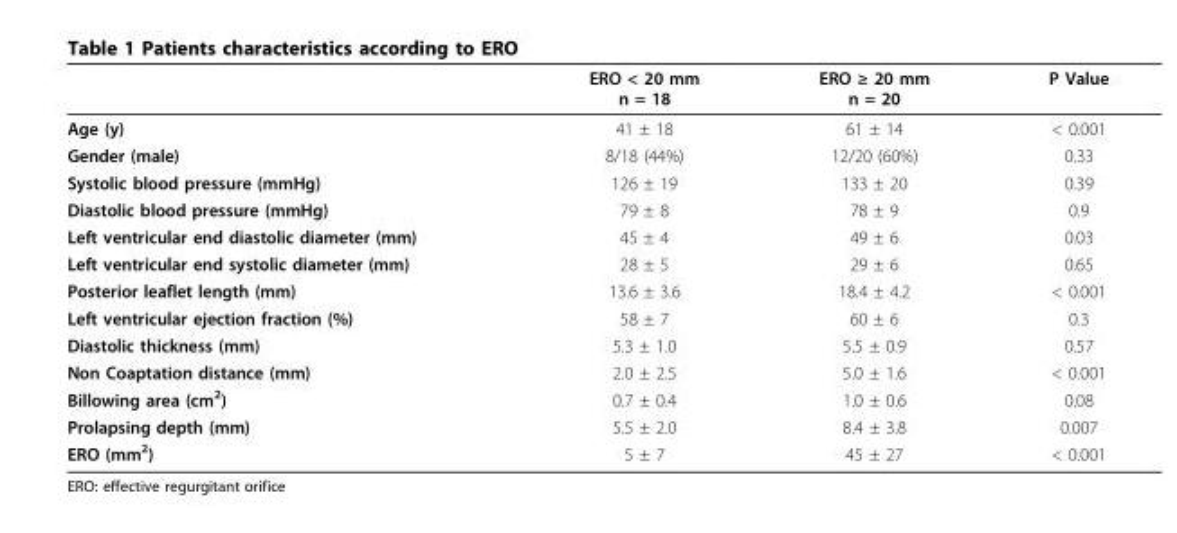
<table><thead><tr><td></td><td>ERO &lt; 20 mm n = 18</td><td>ERO ≥ 20 mm n = 20</td><td>P Value</td></tr></thead><tbody><tr><td>Age (y)</td><td>41 ± 18</td><td>61 ± 14</td><td>&lt; 0.001</td></tr><tr><td>Gender (male)</td><td>8/18 (44%)</td><td>12/20 (60%)</td><td>0.33</td></tr><tr><td>Systolic blood pressure (mmHg)</td><td>126 ± 19</td><td>133 ± 20</td><td>0.39</td></tr><tr><td>Diastolic blood pressure (mmHg)</td><td>79 ± 8</td><td>78 ± 9</td><td>0.9</td></tr><tr><td>Left ventricular end diastolic diameter (mm)</td><td>45 ± 4</td><td>49 ± 6</td><td>0.03</td></tr><tr><td>Left ventricular end systolic diameter (mm)</td><td>28 ± 5</td><td>29 ± 6</td><td>0.65</td></tr><tr><td>Posterior leaflet length (mm)</td><td>13.6 ± 3.6</td><td>18.4 ± 4.2</td><td>&lt; 0.001</td></tr><tr><td>Left ventricular ejection fraction (%)</td><td>58 ± 7</td><td>60 ± 6</td><td>0.3</td></tr><tr><td>Diastolic thickness (mm)</td><td>5.3 ± 1.0</td><td>5.5 ± 0.9</td><td>0.57</td></tr><tr><td>Non Coaptation distance (mm)</td><td>2.0 ± 2.5</td><td>5.0 ± 1.6</td><td>&lt; 0.001</td></tr><tr><td>Billowing area (cm<sup>2</sup>)</td><td>0.7 ± 0.4</td><td>1.0 ± 0.6</td><td>0.08</td></tr><tr><td>Prolapsing depth (mm)</td><td>5.5 ± 2.0</td><td>8.4 ± 3.8</td><td>0.007</td></tr><tr><td>ERO (mm<sup>2</sup>)</td><td>5 ± 7</td><td>45 ± 27</td><td>&lt; 0.001</td></tr></tbody></table>